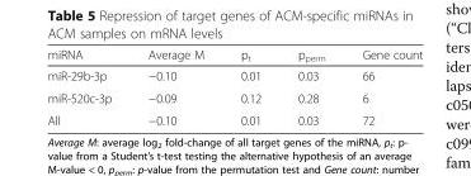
<table><thead><tr><td>miRNA</td><td>Average M</td><td>p<sub>t</sub></td><td>p<sub>perm</sub></td><td>Gene count</td></tr></thead><tbody><tr><td>miR-29b-3p</td><td>−0.10</td><td>0.01</td><td>0.03</td><td>66</td></tr><tr><td>miR-520c-3p</td><td>−0.09</td><td>0.12</td><td>0.28</td><td>6</td></tr><tr><td>All</td><td>−0.10</td><td>0.01</td><td>0.03</td><td>72</td></tr></tbody></table>